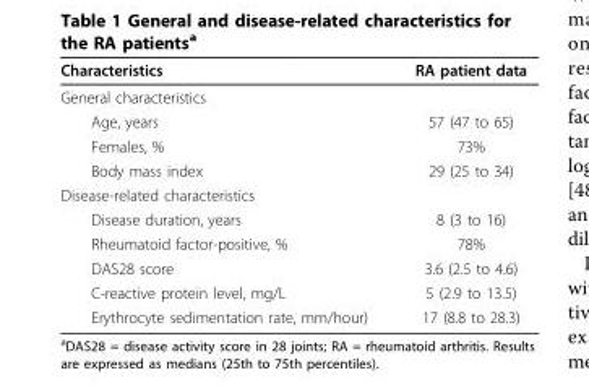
<table><thead><tr><td>Characteristics</td><td>RA patient data</td></tr></thead><tbody><tr><td colspan="2">General characteristics</td></tr><tr><td>Age, years</td><td>57 (47 to 65)</td></tr><tr><td>Females, %</td><td>73%</td></tr><tr><td>Body mass index</td><td>29 (25 to 34)</td></tr><tr><td colspan="2">Disease-related characteristics</td></tr><tr><td>Disease duration, years</td><td>8 (3 to 16)</td></tr><tr><td>Rheumatoid factor-positive, %</td><td>78%</td></tr><tr><td>DAS28 score</td><td>3.6 (2.5 to 4.6)</td></tr><tr><td>C-reactive protein level, mg/L</td><td>5 (2.9 to 13.5)</td></tr><tr><td>Erythrocyte sedimentation rate, mm/hour)</td><td>17 (8.8 to 28.3)</td></tr></tbody></table>